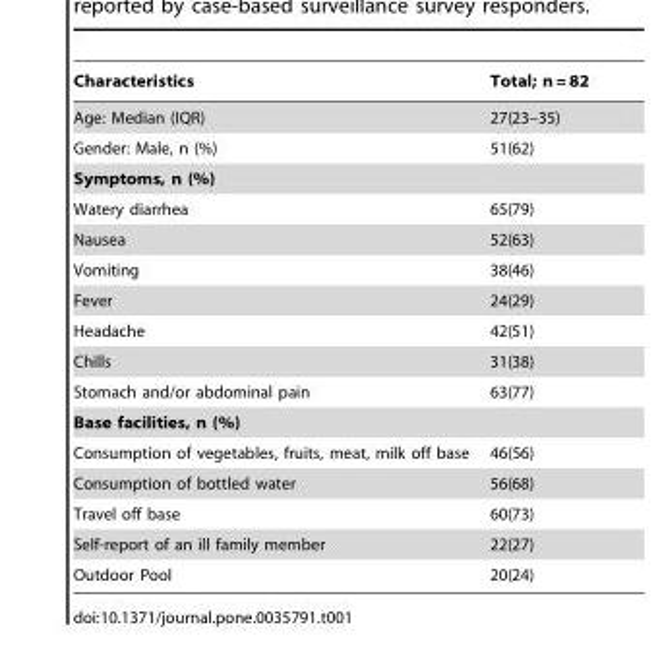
<table><thead><tr><td>Characteristics</td><td>Total; n = 82</td></tr></thead><tbody><tr><td>Age: Median (IQR)</td><td>27(23–35)</td></tr><tr><td>Gender: Male, n (%)</td><td>51(62)</td></tr><tr><td colspan="2">Symptoms, n (%)</td></tr><tr><td>Watery diarrhea</td><td>65(79)</td></tr><tr><td>Nausea</td><td>52(63)</td></tr><tr><td>Vomiting</td><td>38(46)</td></tr><tr><td>Fever</td><td>24(29)</td></tr><tr><td>Headache</td><td>42(51)</td></tr><tr><td>Chills</td><td>31(38)</td></tr><tr><td>Stomach and/or abdominal pain</td><td>63(77)</td></tr><tr><td colspan="2">Base facilities, n (%)</td></tr><tr><td>Consumption of vegetables, fruits, meat, milk off base</td><td>46(56)</td></tr><tr><td>Consumption of bottled water</td><td>56(68)</td></tr><tr><td>Travel off base</td><td>60(73)</td></tr><tr><td>Self-report of an ill family member</td><td>22(27)</td></tr><tr><td>Outdoor Pool</td><td>20(24)</td></tr></tbody></table>